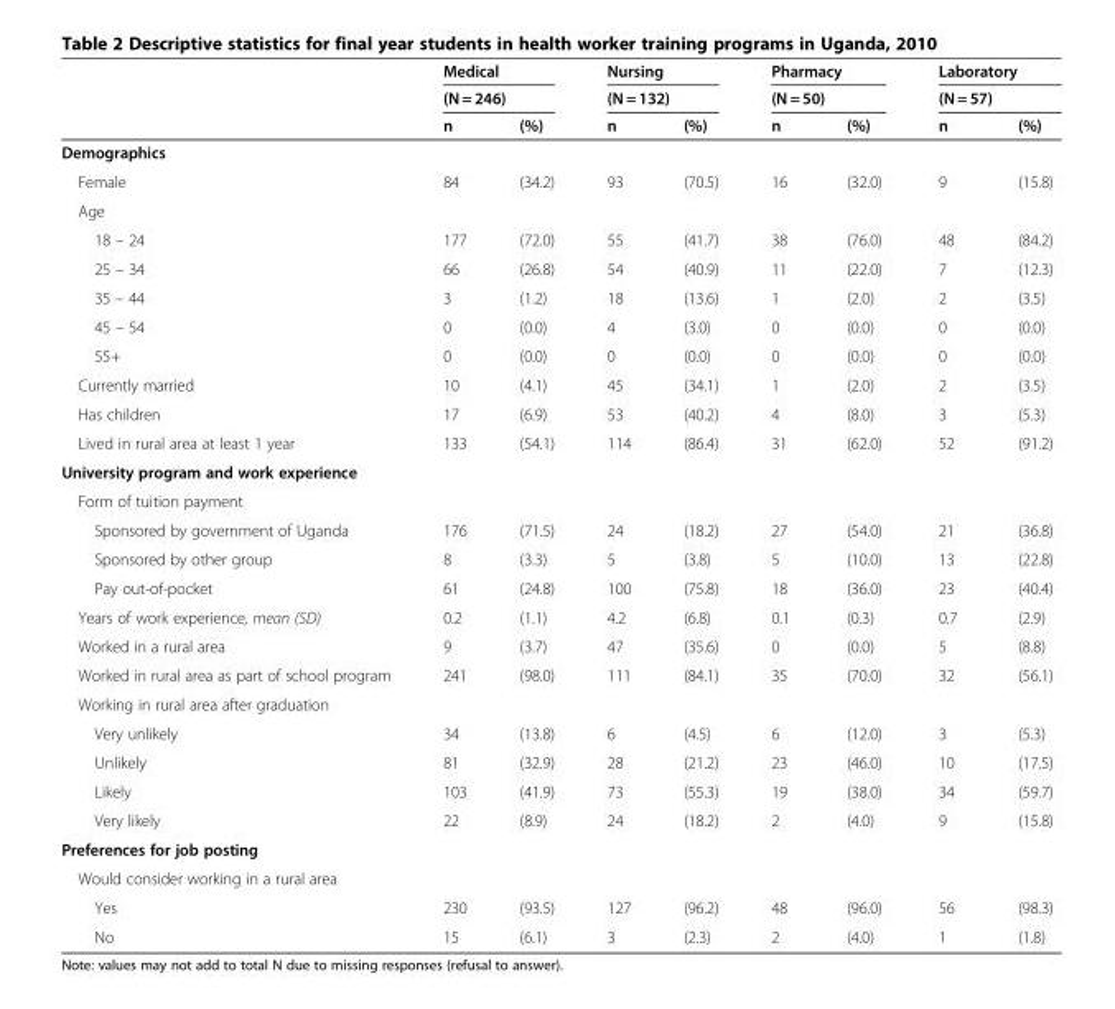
<table><thead><tr><td rowspan="3"></td><td rowspan="2" colspan="2">Medical (N = 246)</td><td rowspan="2" colspan="2">Nursing (N = 132)</td><td rowspan="2" colspan="2">Pharmacy (N = 50)</td><td rowspan="2" colspan="2">Laboratory (N = 57)</td></tr><tr></tr><tr><td>n</td><td>(%)</td><td>n</td><td>(%)</td><td>n</td><td>(%)</td><td>n</td><td>(%)</td></tr></thead><tbody><tr><td colspan="9">Demographics</td></tr><tr><td>Female</td><td>84</td><td>(34.2)</td><td>93</td><td>(70.5)</td><td>16</td><td>(32.0)</td><td>9</td><td>(15.8)</td></tr><tr><td colspan="9">Age</td></tr><tr><td>18 – 24</td><td>177</td><td>(72.0)</td><td>55</td><td>(41.7)</td><td>38</td><td>(76.0)</td><td>48</td><td>(84.2)</td></tr><tr><td>25 – 34</td><td>66</td><td>(26.8)</td><td>54</td><td>(40.9)</td><td>11</td><td>(22.0)</td><td>7</td><td>(12.3)</td></tr><tr><td>35 – 44</td><td>3</td><td>(1.2)</td><td>18</td><td>(13.6)</td><td>1</td><td>(2.0)</td><td>2</td><td>(3.5)</td></tr><tr><td>45 – 54</td><td>0</td><td>(0.0)</td><td>4</td><td>(3.0)</td><td>0</td><td>(0.0)</td><td>0</td><td>(0.0)</td></tr><tr><td>55+</td><td>0</td><td>(0.0)</td><td>0</td><td>(0.0)</td><td>0</td><td>(0.0)</td><td>0</td><td>(0.0)</td></tr><tr><td>Currently married</td><td>10</td><td>(4.1)</td><td>45</td><td>(34.1)</td><td>1</td><td>(2.0)</td><td>2</td><td>(3.5)</td></tr><tr><td>Has children</td><td>17</td><td>(6.9)</td><td>53</td><td>(40.2)</td><td>4</td><td>(8.0)</td><td>3</td><td>(5.3)</td></tr><tr><td>Lived in rural area at least 1 year</td><td>133</td><td>(54.1)</td><td>114</td><td>(86.4)</td><td>31</td><td>(62.0)</td><td>52</td><td>(91.2)</td></tr><tr><td colspan="9">University program and work experience</td></tr><tr><td colspan="9">Form of tuition payment</td></tr><tr><td>Sponsored by government of Uganda</td><td>176</td><td>(71.5)</td><td>24</td><td>(18.2)</td><td>27</td><td>(54.0)</td><td>21</td><td>(36.8)</td></tr><tr><td>Sponsored by other group</td><td>8</td><td>(3.3)</td><td>5</td><td>(3.8)</td><td>5</td><td>(10.0)</td><td>13</td><td>(22.8)</td></tr><tr><td>Pay out-of-pocket</td><td>61</td><td>(24.8)</td><td>100</td><td>(75.8)</td><td>18</td><td>(36.0)</td><td>23</td><td>(40.4)</td></tr><tr><td>Years of work experience, mean (SD)</td><td>0.2</td><td>(1.1)</td><td>4.2</td><td>(6.8)</td><td>0.1</td><td>(0.3)</td><td>0.7</td><td>(2.9)</td></tr><tr><td>Worked in a rural area</td><td>9</td><td>(3.7)</td><td>47</td><td>(35.6)</td><td>0</td><td>(0.0)</td><td>5</td><td>(8.8)</td></tr><tr><td>Worked in rural area as part of school program</td><td>241</td><td>(98.0)</td><td>111</td><td>(84.1)</td><td>35</td><td>(70.0)</td><td>32</td><td>(56.1)</td></tr><tr><td colspan="9">Working in rural area after graduation</td></tr><tr><td>Very unlikely</td><td>34</td><td>(13.8)</td><td>6</td><td>(4.5)</td><td>6</td><td>(12.0)</td><td>3</td><td>(5.3)</td></tr><tr><td>Unlikely</td><td>81</td><td>(32.9)</td><td>28</td><td>(21.2)</td><td>23</td><td>(46.0)</td><td>10</td><td>(17.5)</td></tr><tr><td>Likely</td><td>103</td><td>(41.9)</td><td>73</td><td>(55.3)</td><td>19</td><td>(38.0)</td><td>34</td><td>(59.7)</td></tr><tr><td>Very likely</td><td>22</td><td>(8.9)</td><td>24</td><td>(18.2)</td><td>2</td><td>(4.0)</td><td>9</td><td>(15.8)</td></tr><tr><td colspan="9">Preferences for job posting</td></tr><tr><td colspan="9">Would consider working in a rural area</td></tr><tr><td>Yes</td><td>230</td><td>(93.5)</td><td>127</td><td>(96.2)</td><td>48</td><td>(96.0)</td><td>56</td><td>(98.3)</td></tr><tr><td>No</td><td>15</td><td>(6.1)</td><td>3</td><td>(2.3)</td><td>2</td><td>(4.0)</td><td>1</td><td>(1.8)</td></tr></tbody></table>